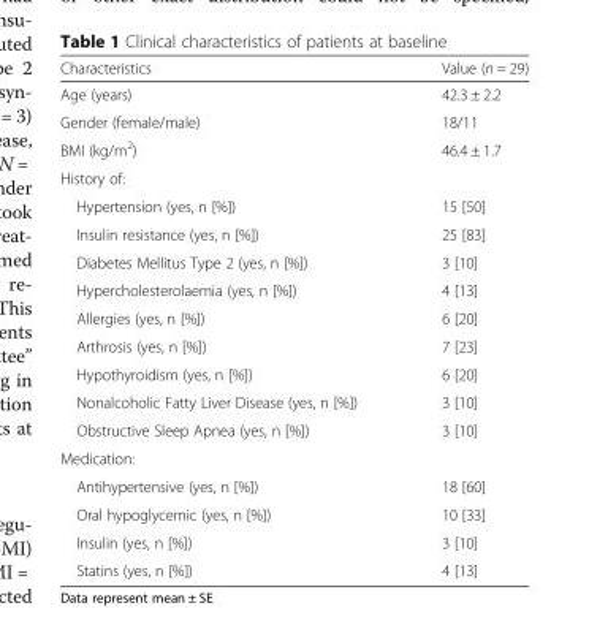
<table><thead><tr><td>Characteristics</td><td>Value (n = 29)</td></tr></thead><tbody><tr><td>Age (years)</td><td>42.3 ± 2.2</td></tr><tr><td>Gender (female/male)</td><td>18/11</td></tr><tr><td>BMI (kg/m<sup>2</sup>)</td><td>46.4 ± 1.7</td></tr><tr><td colspan="2">History of:</td></tr><tr><td>Hypertension (yes, n [%])</td><td>15 [50]</td></tr><tr><td>Insulin resistance (yes, n [%])</td><td>25 [83]</td></tr><tr><td>Diabetes Mellitus Type 2 (yes, n [%])</td><td>3 [10]</td></tr><tr><td>Hypercholesterolaemia (yes, n [%])</td><td>4 [13]</td></tr><tr><td>Allergies (yes, n [%])</td><td>6 [20]</td></tr><tr><td>Arthrosis (yes, n [%])</td><td>7 [23]</td></tr><tr><td>Hypothyroidism (yes, n [%])</td><td>6 [20]</td></tr><tr><td>Nonalcoholic Fatty Liver Disease (yes, n [%])</td><td>3 [10]</td></tr><tr><td>Obstructive Sleep Apnea (yes, n [%])</td><td>3 [10]</td></tr><tr><td colspan="2">Medication:</td></tr><tr><td>Antihypertensive (yes, n [%])</td><td>18 [60]</td></tr><tr><td>Oral hypoglycemic (yes, n [%])</td><td>10 [33]</td></tr><tr><td>Insulin (yes, n [%])</td><td>3 [10]</td></tr><tr><td>Statins (yes, n [%])</td><td>4 [13]</td></tr></tbody></table>